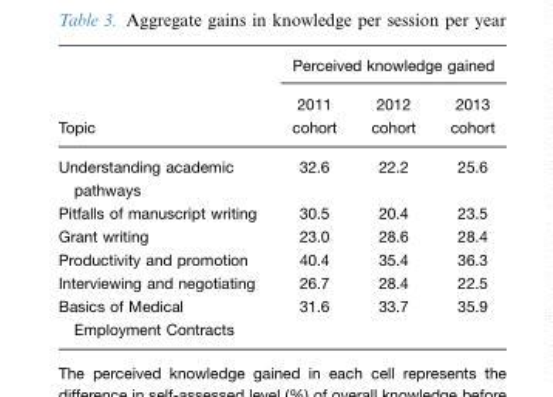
<table><thead><tr><td rowspan="2">Topic</td><td colspan="3">Perceived knowledge gained</td></tr><tr><td>2011 cohort</td><td>2012 cohort</td><td>2013 cohort</td></tr></thead><tbody><tr><td>Understanding academic pathways</td><td>32.6</td><td>22.2</td><td>25.6</td></tr><tr><td>Pitfalls of manuscript writing</td><td>30.5</td><td>20.4</td><td>23.5</td></tr><tr><td>Grant writing</td><td>23.0</td><td>28.6</td><td>28.4</td></tr><tr><td>Productivity and promotion</td><td>40.4</td><td>35.4</td><td>36.3</td></tr><tr><td>Interviewing and negotiating</td><td>26.7</td><td>28.4</td><td>22.5</td></tr><tr><td>Basics of Medical Employment Contracts</td><td>31.6</td><td>33.7</td><td>35.9</td></tr></tbody></table>